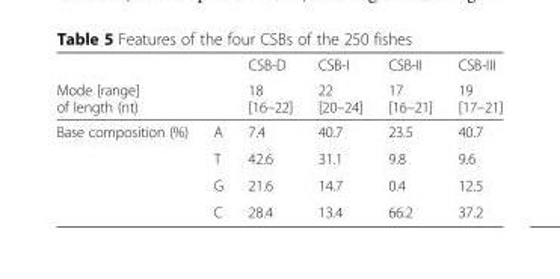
<table><thead><tr><td rowspan="2">Mode [range] of length (nt)</td><td rowspan="2"></td><td rowspan="2">CSB-D 18 [16–22]</td><td rowspan="2">CSB-I 22 [20–24]</td><td rowspan="2">CSB-II 17 [16–21]</td><td rowspan="2">CSB-III 19 [17–21]</td></tr><tr></tr></thead><tbody><tr><td rowspan="4">Base composition (%)</td><td>A</td><td>7.4</td><td>40.7</td><td>23.5</td><td>40.7</td></tr><tr><td>T</td><td>42.6</td><td>31.1</td><td>9.8</td><td>9.6</td></tr><tr><td>G</td><td>21.6</td><td>14.7</td><td>0.4</td><td>12.5</td></tr><tr><td>C</td><td>28.4</td><td>13.4</td><td>66.2</td><td>37.2</td></tr></tbody></table>